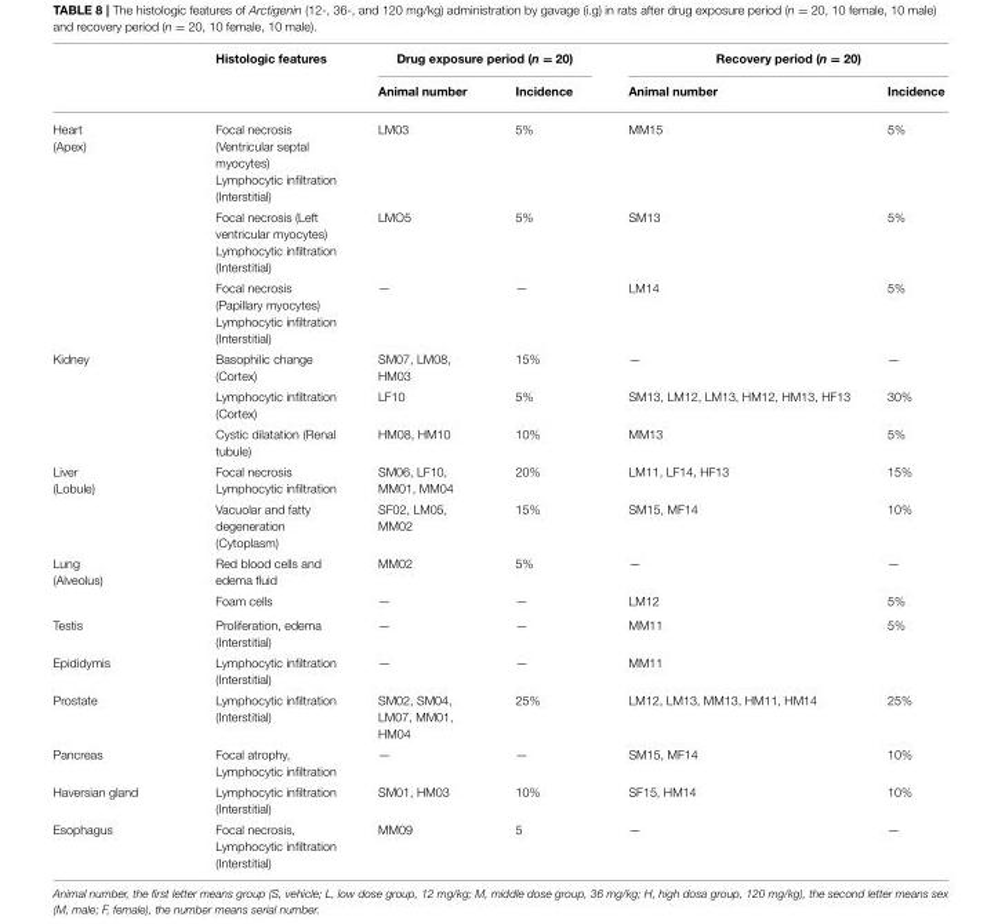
<table><thead><tr><td rowspan="2"></td><td rowspan="2">Histologic features</td><td colspan="2">Drug exposure period (n = 20)</td><td colspan="2">Recovery period (n = 20)</td></tr><tr><td>Animal number</td><td>Incidence</td><td>Animal number</td><td>Incidence</td></tr></thead><tbody><tr><td rowspan="3">Heart (Apex)</td><td>Focal necrosis (Ventricular septal myocytes) Lymphocytic infiltration (Interstitial)</td><td>LM03</td><td>5%</td><td>MM15</td><td>5%</td></tr><tr><td>Focal necrosis (Left ventricular myocytes) Lymphocytic infiltration (Interstitial)</td><td>LMO5</td><td>5%</td><td>SM13</td><td>5%</td></tr><tr><td>Focal necrosis (Papillary myocytes) Lymphocytic infiltration (Interstitial)</td><td>—</td><td>—</td><td>LM14</td><td>5%</td></tr><tr><td rowspan="3">Kidney</td><td>Basophilic change (Cortex)</td><td>SM07, LM08, HM03</td><td>15%</td><td>—</td><td>—</td></tr><tr><td>Lymphocytic infiltration (Cortex)</td><td>LF10</td><td>5%</td><td>SM13, LM12, LM13, HM12, HM13, HF13</td><td>30%</td></tr><tr><td>Cystic dilatation (Renal tubule)</td><td>HM08, HM10</td><td>10%</td><td>MM13</td><td>5%</td></tr><tr><td rowspan="2">Liver (Lobule)</td><td>Focal necrosis Lymphocytic infiltration</td><td>SM06, LF10, MM01, MM04</td><td>20%</td><td>LM11, LF14, HF13</td><td>15%</td></tr><tr><td>Vacuolar and fatty degeneration (Cytoplasm)</td><td>SF02, LM05, MM02</td><td>15%</td><td>SM15, MF14</td><td>10%</td></tr><tr><td rowspan="2">Lung (Alveolus)</td><td>Red blood cells and edema fluid</td><td>MM02</td><td>5%</td><td>—</td><td>—</td></tr><tr><td>Foam cells</td><td>—</td><td>—</td><td>LM12</td><td>5%</td></tr><tr><td>Testis</td><td>Proliferation, edema (Interstitial)</td><td>—</td><td>—</td><td>MM11</td><td>5%</td></tr><tr><td>Epididymis</td><td>Lymphocytic infiltration (Interstitial)</td><td>—</td><td>—</td><td>MM11</td><td></td></tr><tr><td>Prostate</td><td>Lymphocytic infiltration (Interstitial)</td><td>SM02, SM04, LM07, MM01, HM04</td><td>25%</td><td>LM12, LM13, MM13, HM11, HM14</td><td>25%</td></tr><tr><td>Pancreas</td><td>Focal atrophy, Lymphocytic infiltration</td><td>—</td><td>—</td><td>SM15, MF14</td><td>10%</td></tr><tr><td>Haversian gland</td><td>Lymphocytic infiltration (Interstitial)</td><td>SM01, HM03</td><td>10%</td><td>SF15, HM14</td><td>10%</td></tr><tr><td>Esophagus</td><td>Focal necrosis, Lymphocytic infiltration (Interstitial)</td><td>MM09</td><td>5</td><td>—</td><td>—</td></tr></tbody></table>